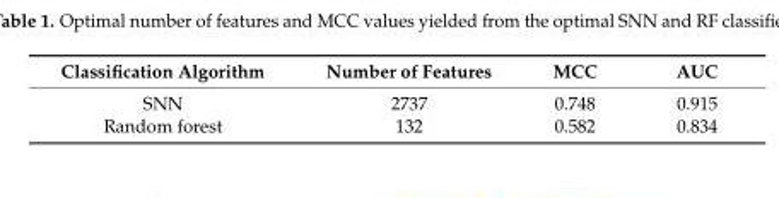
<table><thead><tr><td>Classification Algorithm</td><td>Number of Features</td><td>MCC</td><td>AUC</td></tr></thead><tbody><tr><td>SNN</td><td>2737</td><td>0.748</td><td>0.915</td></tr><tr><td>Random forest</td><td>132</td><td>0.582</td><td>0.834</td></tr></tbody></table>